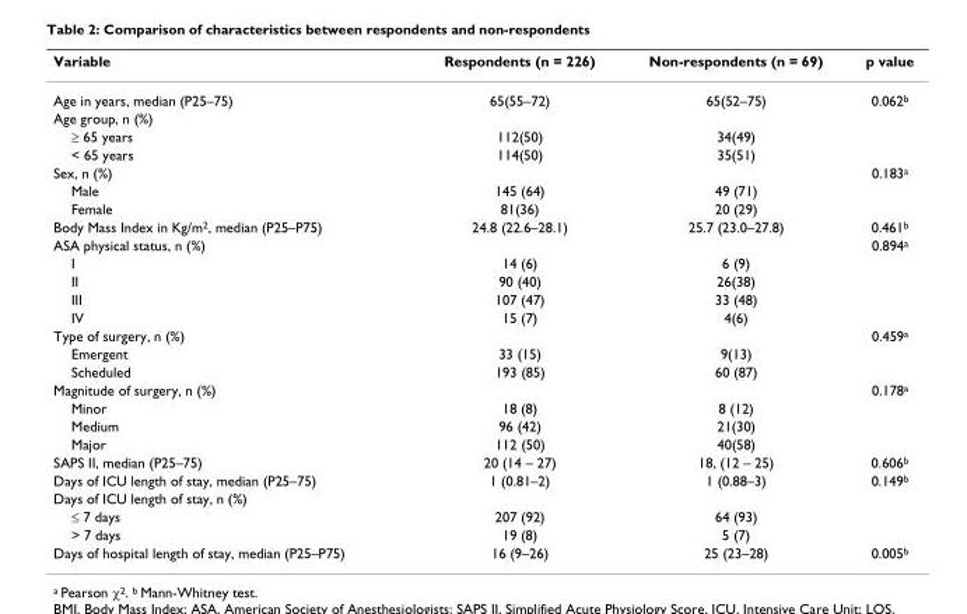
<table><thead><tr><td>Variable</td><td>Respondents (n = 226)</td><td>Non-respondents (n = 69)</td><td>p value</td></tr></thead><tbody><tr><td>Age in years, median (P25–75)</td><td>65(55–72)</td><td>65(52–75)</td><td>0.062<sup>b</sup></td></tr><tr><td colspan="4">Age group, n (%)</td></tr><tr><td>≥ 65 years</td><td>112(50)</td><td>34(49)</td><td></td></tr><tr><td>&lt; 65 years</td><td>114(50)</td><td>35(51)</td><td></td></tr><tr><td>Sex, n (%)</td><td></td><td></td><td>0.183<sup>a</sup></td></tr><tr><td>Male</td><td>145 (64)</td><td>49 (71)</td><td></td></tr><tr><td>Female</td><td>81(36)</td><td>20 (29)</td><td></td></tr><tr><td>Body Mass Index in Kg/m<sup>2</sup>, median (P25–P75)</td><td>24.8 (22.6–28.1)</td><td>25.7 (23.0–27.8)</td><td>0.461<sup>b</sup></td></tr><tr><td>ASA physical status, n (%)</td><td></td><td></td><td>0.894<sup>a</sup></td></tr><tr><td>I</td><td>14 (6)</td><td>6 (9)</td><td></td></tr><tr><td>II</td><td>90 (40)</td><td>26(38)</td><td></td></tr><tr><td>III</td><td>107 (47)</td><td>33 (48)</td><td></td></tr><tr><td>IV</td><td>15 (7)</td><td>4(6)</td><td></td></tr><tr><td>Type of surgery, n (%)</td><td></td><td></td><td>0.459<sup>a</sup></td></tr><tr><td>Emergent</td><td>33 (15)</td><td>9(13)</td><td></td></tr><tr><td>Scheduled</td><td>193 (85)</td><td>60 (87)</td><td></td></tr><tr><td>Magnitude of surgery, n (%)</td><td></td><td></td><td>0.178<sup>a</sup></td></tr><tr><td>Minor</td><td>18 (8)</td><td>8 (12)</td><td></td></tr><tr><td>Medium</td><td>96 (42)</td><td>21(30)</td><td></td></tr><tr><td>Major</td><td>112 (50)</td><td>40(58)</td><td></td></tr><tr><td>SAPS II, median (P25–75)</td><td>20 (14 – 27)</td><td>18, (12 – 25)</td><td>0.606<sup>b</sup></td></tr><tr><td>Days of ICU length of stay, median (P25–75)</td><td>1 (0.81–2)</td><td>1 (0.88–3)</td><td>0.149<sup>b</sup></td></tr><tr><td colspan="4">Days of ICU length of stay, n (%)</td></tr><tr><td>≤ 7 days</td><td>207 (92)</td><td>64 (93)</td><td></td></tr><tr><td>&gt; 7 days</td><td>19 (8)</td><td>5 (7)</td><td></td></tr><tr><td>Days of hospital length of stay, median (P25–P75)</td><td>16 (9–26)</td><td>25 (23–28)</td><td>0.005<sup>b</sup></td></tr></tbody></table>